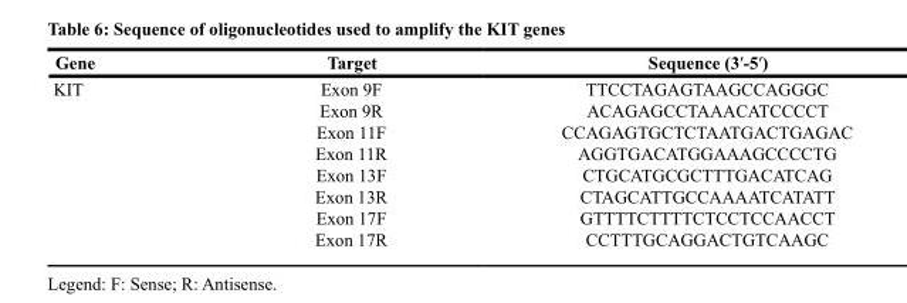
<table><thead><tr><td>Gene</td><td>Target</td><td>Sequence (3′-5′)</td></tr></thead><tbody><tr><td>KIT</td><td>Exon 9F Exon 9R Exon 11F Exon 11R Exon 13F Exon 13R Exon 17F Exon 17R</td><td>TTCCTAGAGTAAGCCAGGGC ACAGAGCCTAAACATCCCCT CCAGAGTGCTCTAATGACTGAGAC AGGTGACATGGAAAGCCCCTG CTGCATGCGCTTTGACATCAG CTAGCATTGCCAAAATCATATT GTTTTCTTTTCTCCTCCAACCT CCTTTGCAGGACTGTCAAGC</td></tr></tbody></table>